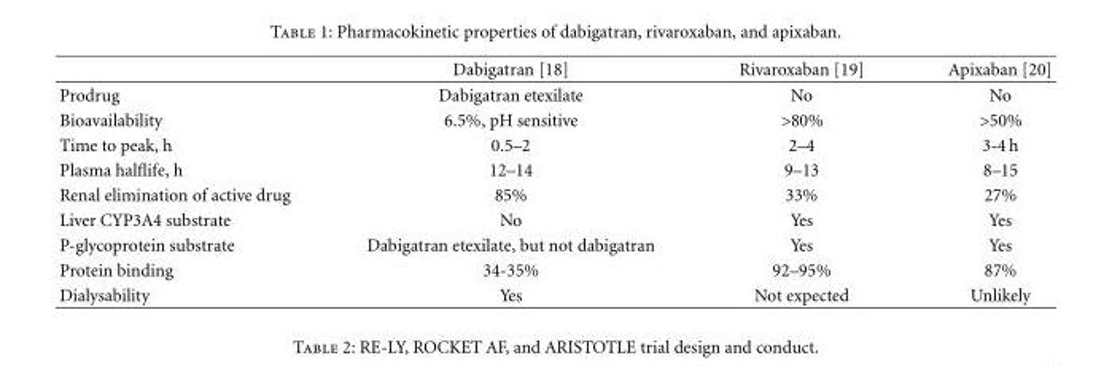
<table><thead><tr><td></td><td>Dabigatran [18]</td><td>Rivaroxaban [19]</td><td>Apixaban [20]</td></tr></thead><tbody><tr><td>Prodrug</td><td>Dabigatran etexilate</td><td>No</td><td>No</td></tr><tr><td>Bioavailability</td><td>6.5%, pH sensitive</td><td>&gt;80%</td><td>&gt;50%</td></tr><tr><td>Time to peak, h</td><td>0.5–2</td><td>2–4</td><td>3-4 h</td></tr><tr><td>Plasma halflife, h</td><td>12–14</td><td>9–13</td><td>8–15</td></tr><tr><td>Renal elimination of active drug</td><td>85%</td><td>33%</td><td>27%</td></tr><tr><td>Liver CYP3A4 substrate</td><td>No</td><td>Yes</td><td>Yes</td></tr><tr><td>P-glycoprotein substrate</td><td>Dabigatran etexilate, but not dabigatran</td><td>Yes</td><td>Yes</td></tr><tr><td>Protein binding</td><td>34-35%</td><td>92–95%</td><td>87%</td></tr><tr><td>Dialysability</td><td>Yes</td><td>Not expected</td><td>Unlikely</td></tr></tbody></table>